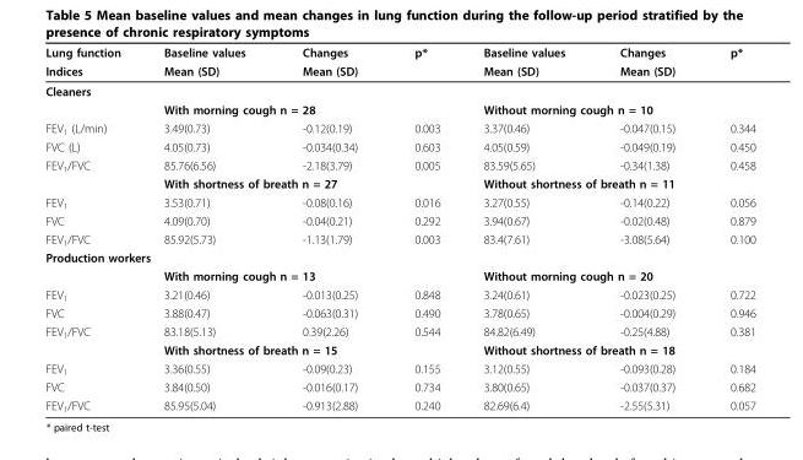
<table><thead><tr><td rowspan="2">Lung function Indices</td><td rowspan="2">Baseline values Mean (SD)</td><td rowspan="2">Changes Mean (SD)</td><td rowspan="2">p*</td><td rowspan="2">Baseline values Mean (SD)</td><td rowspan="2">Changes Mean (SD)</td><td rowspan="2">p*</td></tr><tr></tr></thead><tbody><tr><td colspan="7">Cleaners</td></tr><tr><td></td><td colspan="2">With morning cough n = 28</td><td></td><td colspan="2">Without morning cough n = 10</td><td></td></tr><tr><td>FEV<sub>1</sub> (L/min)</td><td>3.49(0.73)</td><td>-0.12(0.19)</td><td>0.003</td><td>3.37(0.46)</td><td>-0.047(0.15)</td><td>0.344</td></tr><tr><td>FVC (L)</td><td>4.05(0.73)</td><td>-0.034(0.34)</td><td>0.603</td><td>4.05(0.59)</td><td>-0.049(0.19)</td><td>0.450</td></tr><tr><td rowspan="2">FEV<sub>1</sub>/FVC</td><td>85.76(6.56)</td><td>-2.18(3.79)</td><td>0.005</td><td>83.59(5.65)</td><td>-0.34(1.38)</td><td>0.458</td></tr><tr><td colspan="2">With shortness of breath n = 27</td><td></td><td colspan="3">Without shortness of breath n = 11</td></tr><tr><td>FEV<sub>1</sub></td><td>3.53(0.71)</td><td>-0.08(0.16)</td><td>0.016</td><td>3.27(0.55)</td><td>-0.14(0.22)</td><td>0.056</td></tr><tr><td>FVC</td><td>4.09(0.70)</td><td>-0.04(0.21)</td><td>0.292</td><td>3.94(0.67)</td><td>-0.02(0.48)</td><td>0.879</td></tr><tr><td>FEV<sub>1</sub>/FVC</td><td>85.92(5.73)</td><td>-1.13(1.79)</td><td>0.003</td><td>83.4(7.61)</td><td>-3.08(5.64)</td><td>0.100</td></tr><tr><td colspan="7">Production workers</td></tr><tr><td></td><td colspan="2">With morning cough n = 13</td><td></td><td colspan="2">Without morning cough n = 20</td><td></td></tr><tr><td>FEV<sub>1</sub></td><td>3.21(0.46)</td><td>-0.013(0.25)</td><td>0.848</td><td>3.24(0.61)</td><td>-0.023(0.25)</td><td>0.722</td></tr><tr><td>FVC</td><td>3.88(0.47)</td><td>-0.063(0.31)</td><td>0.490</td><td>3.78(0.65)</td><td>-0.004(0.29)</td><td>0.946</td></tr><tr><td rowspan="2">FEV<sub>1</sub>/FVC</td><td>83.18(5.13)</td><td>0.39(2.26)</td><td>0.544</td><td>84.82(6.49)</td><td>-0.25(4.88)</td><td>0.381</td></tr><tr><td colspan="2">With shortness of breath n = 15</td><td></td><td colspan="3">Without shortness of breath n = 18</td></tr><tr><td>FEV<sub>1</sub></td><td>3.36(0.55)</td><td>-0.09(0.23)</td><td>0.155</td><td>3.12(0.55)</td><td>-0.093(0.28)</td><td>0.184</td></tr><tr><td>FVC</td><td>3.84(0.50)</td><td>-0.016(0.17)</td><td>0.734</td><td>3.80(0.65)</td><td>-0.037(0.37)</td><td>0.682</td></tr><tr><td>FEV<sub>1</sub>/FVC</td><td>85.95(5.04)</td><td>-0.913(2.88)</td><td>0.240</td><td>82.69(6.4)</td><td>-2.55(5.31)</td><td>0.057</td></tr></tbody></table>